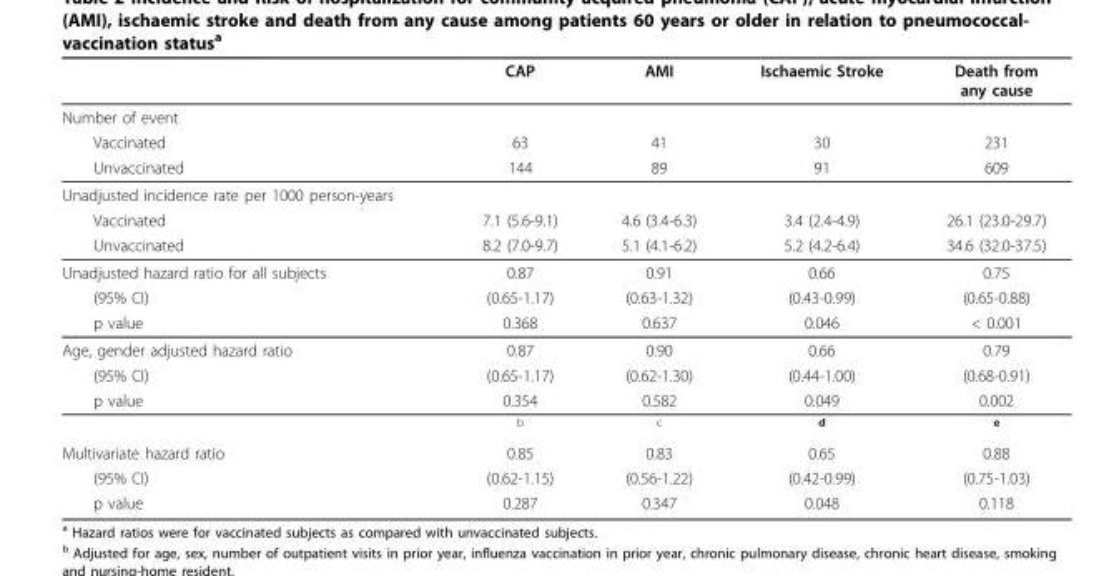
<table><thead><tr><td></td><td>CAP</td><td>AMI</td><td>Ischaemic Stroke</td><td>Death from any cause</td></tr></thead><tbody><tr><td colspan="5">Number of event</td></tr><tr><td>Vaccinated</td><td>63</td><td>41</td><td>30</td><td>231</td></tr><tr><td>Unvaccinated</td><td>144</td><td>89</td><td>91</td><td>609</td></tr><tr><td colspan="5">Unadjusted incidence rate per 1000 person-years</td></tr><tr><td>Vaccinated</td><td>7.1 (5.6-9.1)</td><td>4.6 (3.4-6.3)</td><td>3.4 (2.4-4.9)</td><td>26.1 (23.0-29.7)</td></tr><tr><td>Unvaccinated</td><td>8.2 (7.0-9.7)</td><td>5.1 (4.1-6.2)</td><td>5.2 (4.2-6.4)</td><td>34.6 (32.0-37.5)</td></tr><tr><td>Unadjusted hazard ratio for all subjects</td><td>0.87</td><td>0.91</td><td>0.66</td><td>0.75</td></tr><tr><td>(95% CI)</td><td>(0.65-1.17)</td><td>(0.63-1.32)</td><td>(0.43-0.99)</td><td>(0.65-0.88)</td></tr><tr><td>p value</td><td>0.368</td><td>0.637</td><td>0.046</td><td>&lt; 0.001</td></tr><tr><td>Age, gender adjusted hazard ratio</td><td>0.87</td><td>0.90</td><td>0.66</td><td>0.79</td></tr><tr><td>(95% CI)</td><td>(0.65-1.17)</td><td>(0.62-1.30)</td><td>(0.44-1.00)</td><td>(0.68-0.91)</td></tr><tr><td rowspan="2">p value</td><td>0.354</td><td>0.582</td><td>0.049</td><td>0.002</td></tr><tr><td><sup>b</sup></td><td><sup>c</sup></td><td><sup>d</sup></td><td><sup>e</sup></td></tr><tr><td>Multivariate hazard ratio</td><td>0.85</td><td>0.83</td><td>0.65</td><td>0.88</td></tr><tr><td>(95% CI)</td><td>(0.62-1.15)</td><td>(0.56-1.22)</td><td>(0.42-0.99)</td><td>(0.75-1.03)</td></tr><tr><td>p value</td><td>0.287</td><td>0.347</td><td>0.048</td><td>0.118</td></tr></tbody></table>